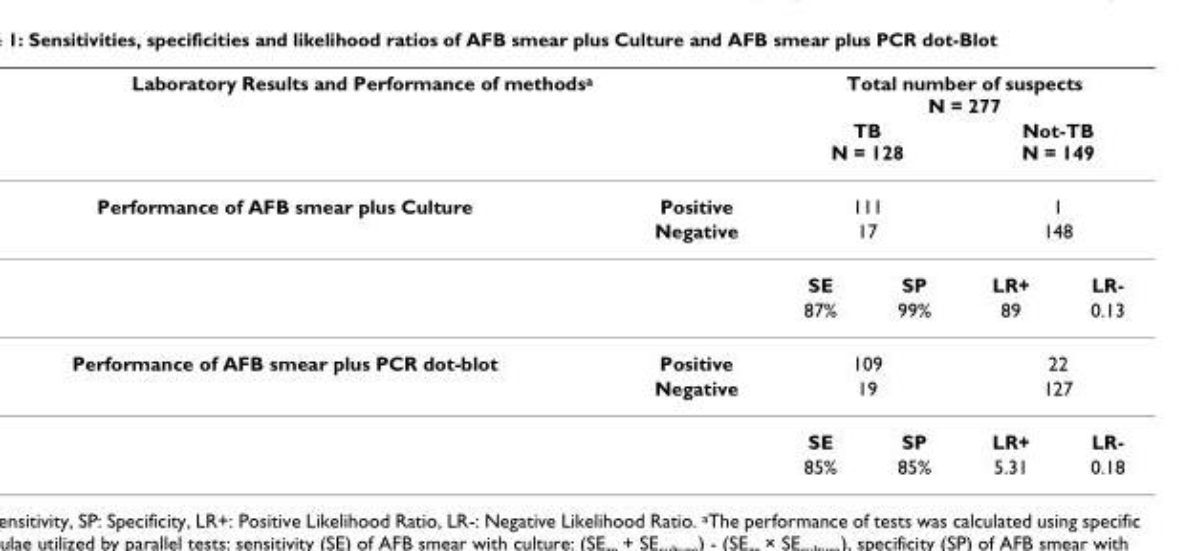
<table><thead><tr><td colspan="2">Laboratory Results and Performance of methodsa</td><td colspan="4">Total number of suspects N = 277</td></tr><tr><td rowspan="4">Performance of AFB smear plus Culture</td><td rowspan="4">Positive Negative</td><td rowspan="3" colspan="2">TB N = 128 111 17</td><td rowspan="3" colspan="2">Not-TB N = 149 1 148</td></tr><tr></tr><tr></tr><tr><td>SE</td><td>SP</td><td>LR+</td><td>LR-</td></tr></thead><tbody><tr><td></td><td></td><td>87%</td><td>99%</td><td>89</td><td>0.13</td></tr><tr><td rowspan="4">Performance of AFB smear plus PCR dot-blot</td><td>Positive</td><td colspan="2">109</td><td colspan="2">22</td></tr><tr><td>Negative</td><td colspan="2">19</td><td colspan="2">127</td></tr><tr><td></td><td>SE</td><td>SP</td><td>LR+</td><td>LR-</td></tr><tr><td></td><td>85%</td><td>85%</td><td>5.31</td><td>0.18</td></tr></tbody></table>